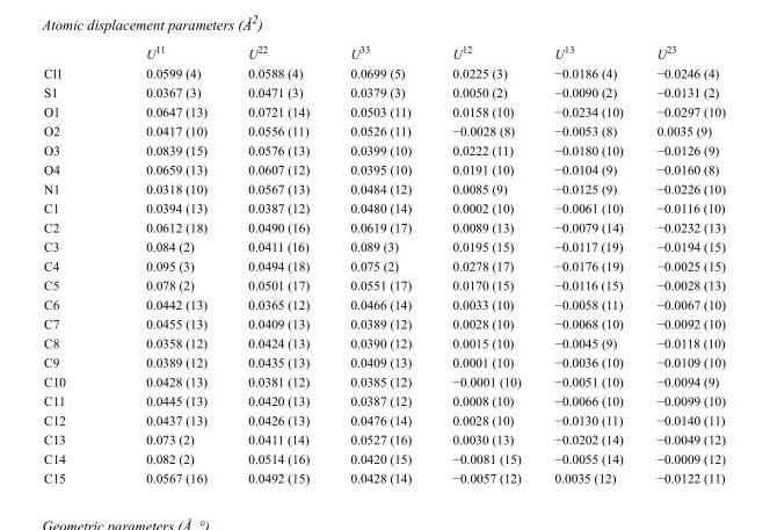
<table><thead><tr><td></td><td>U<sup>11</sup></td><td>U<sup>22</sup></td><td>U<sup>33</sup></td><td>U<sup>12</sup></td><td>U<sup>13</sup></td><td>U<sup>23</sup></td></tr></thead><tbody><tr><td>Cl1</td><td>0.0599 (4)</td><td>0.0588 (4)</td><td>0.0699 (5)</td><td>0.0225 (3)</td><td>−0.0186 (4)</td><td>−0.0246 (4)</td></tr><tr><td>S1</td><td>0.0367 (3)</td><td>0.0471 (3)</td><td>0.0379 (3)</td><td>0.0050 (2)</td><td>−0.0090 (2)</td><td>−0.0131 (2)</td></tr><tr><td>O1</td><td>0.0647 (13)</td><td>0.0721 (14)</td><td>0.0503 (11)</td><td>0.0158 (10)</td><td>−0.0234 (10)</td><td>−0.0297 (10)</td></tr><tr><td>O2</td><td>0.0417 (10)</td><td>0.0556 (11)</td><td>0.0526 (11)</td><td>−0.0028 (8)</td><td>−0.0053 (8)</td><td>0.0035 (9)</td></tr><tr><td>O3</td><td>0.0839 (15)</td><td>0.0576 (13)</td><td>0.0399 (10)</td><td>0.0222 (11)</td><td>−0.0180 (10)</td><td>−0.0126 (9)</td></tr><tr><td>O4</td><td>0.0659 (13)</td><td>0.0607 (12)</td><td>0.0395 (10)</td><td>0.0191 (10)</td><td>−0.0104 (9)</td><td>−0.0160 (8)</td></tr><tr><td>N1</td><td>0.0318 (10)</td><td>0.0567 (13)</td><td>0.0484 (12)</td><td>0.0085 (9)</td><td>−0.0125 (9)</td><td>−0.0226 (10)</td></tr><tr><td>C1</td><td>0.0394 (13)</td><td>0.0387 (12)</td><td>0.0480 (14)</td><td>0.0002 (10)</td><td>−0.0061 (10)</td><td>−0.0116 (10)</td></tr><tr><td>C2</td><td>0.0612 (18)</td><td>0.0490 (16)</td><td>0.0619 (17)</td><td>0.0089 (13)</td><td>−0.0079 (14)</td><td>−0.0232 (13)</td></tr><tr><td>C3</td><td>0.084 (2)</td><td>0.0411 (16)</td><td>0.089 (3)</td><td>0.0195 (15)</td><td>−0.0117 (19)</td><td>−0.0194 (15)</td></tr><tr><td>C4</td><td>0.095 (3)</td><td>0.0494 (18)</td><td>0.075 (2)</td><td>0.0278 (17)</td><td>−0.0176 (19)</td><td>−0.0025 (15)</td></tr><tr><td>C5</td><td>0.078 (2)</td><td>0.0501 (17)</td><td>0.0551 (17)</td><td>0.0170 (15)</td><td>−0.0116 (15)</td><td>−0.0028 (13)</td></tr><tr><td>C6</td><td>0.0442 (13)</td><td>0.0365 (12)</td><td>0.0466 (14)</td><td>0.0033 (10)</td><td>−0.0058 (11)</td><td>−0.0067 (10)</td></tr><tr><td>C7</td><td>0.0455 (13)</td><td>0.0409 (13)</td><td>0.0389 (12)</td><td>0.0028 (10)</td><td>−0.0068 (10)</td><td>−0.0092 (10)</td></tr><tr><td>C8</td><td>0.0358 (12)</td><td>0.0424 (13)</td><td>0.0390 (12)</td><td>0.0015 (10)</td><td>−0.0045 (9)</td><td>−0.0118 (10)</td></tr><tr><td>C9</td><td>0.0389 (12)</td><td>0.0435 (13)</td><td>0.0409 (13)</td><td>0.0001 (10)</td><td>−0.0036 (10)</td><td>−0.0109 (10)</td></tr><tr><td>C10</td><td>0.0428 (13)</td><td>0.0381 (12)</td><td>0.0385 (12)</td><td>−0.0001 (10)</td><td>−0.0051 (10)</td><td>−0.0094 (9)</td></tr><tr><td>C11</td><td>0.0445 (13)</td><td>0.0420 (13)</td><td>0.0387 (12)</td><td>0.0008 (10)</td><td>−0.0066 (10)</td><td>−0.0099 (10)</td></tr><tr><td>C12</td><td>0.0437 (13)</td><td>0.0426 (13)</td><td>0.0476 (14)</td><td>0.0028 (10)</td><td>−0.0130 (11)</td><td>−0.0140 (11)</td></tr><tr><td>C13</td><td>0.073 (2)</td><td>0.0411 (14)</td><td>0.0527 (16)</td><td>0.0030 (13)</td><td>−0.0202 (14)</td><td>−0.0049 (12)</td></tr><tr><td>C14</td><td>0.082 (2)</td><td>0.0514 (16)</td><td>0.0420 (15)</td><td>−0.0081 (15)</td><td>−0.0055 (14)</td><td>−0.0009 (12)</td></tr><tr><td>C15</td><td>0.0567 (16)</td><td>0.0492 (15)</td><td>0.0428 (14)</td><td>−0.0057 (12)</td><td>0.0035 (12)</td><td>−0.0122 (11)</td></tr></tbody></table>